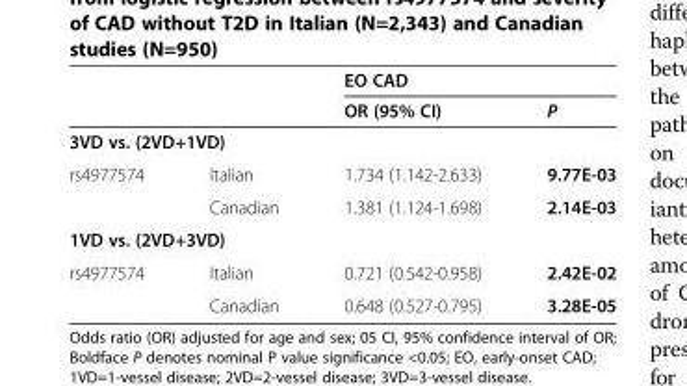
<table><thead><tr><td rowspan="2"></td><td rowspan="2"></td><td colspan="2">EO CAD</td></tr><tr><td>OR (95% CI)</td><td>P</td></tr></thead><tbody><tr><td colspan="4">3VD vs. (2VD+1VD)</td></tr><tr><td rowspan="2">rs4977574</td><td>Italian</td><td>1.734 (1.142-2.633)</td><td>9.77E-03</td></tr><tr><td>Canadian</td><td>1.381 (1.124-1.698)</td><td>2.14E-03</td></tr><tr><td colspan="4">1VD vs. (2VD+3VD)</td></tr><tr><td rowspan="2">rs4977574</td><td>Italian</td><td>0.721 (0.542-0.958)</td><td>2.42E-02</td></tr><tr><td>Canadian</td><td>0.648 (0.527-0.795)</td><td>3.28E-05</td></tr></tbody></table>